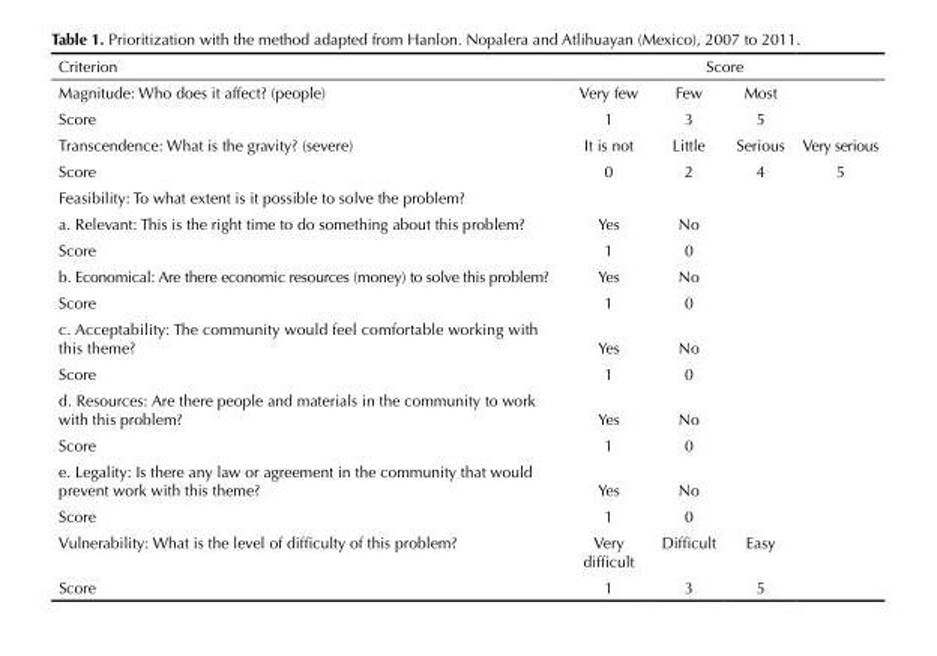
<table><thead><tr><td rowspan="2">Criterion Magnitude: Who does it affect? (people)</td><td colspan="4">Score</td></tr><tr><td>Very few</td><td>Few</td><td>Most</td><td></td></tr></thead><tbody><tr><td>Score</td><td>1</td><td>3</td><td>5</td><td></td></tr><tr><td>Transcendence: What is the gravity? (severe)</td><td>It is not</td><td>Little</td><td>Serious</td><td>Very serious</td></tr><tr><td>Score</td><td>0</td><td>2</td><td>4</td><td>5</td></tr><tr><td colspan="5">Feasibility: To what extent is it possible to solve the problem?</td></tr><tr><td>a. Relevant: This is the right time to do something about this problem?</td><td>Yes</td><td>No</td><td></td><td></td></tr><tr><td>Score</td><td>1</td><td>0</td><td></td><td></td></tr><tr><td>b. Economical: Are there economic resources (money) to solve this problem?</td><td>Yes</td><td>No</td><td></td><td></td></tr><tr><td>Score</td><td>1</td><td>0</td><td></td><td></td></tr><tr><td>c. Acceptability: The community would feel comfortable working with this theme?</td><td>Yes</td><td>No</td><td></td><td></td></tr><tr><td>Score</td><td>1</td><td>0</td><td></td><td></td></tr><tr><td>d. Resources: Are there people and materials in the community to work with this problem?</td><td>Yes</td><td>No</td><td></td><td></td></tr><tr><td>Score</td><td>1</td><td>0</td><td></td><td></td></tr><tr><td>e. Legality: Is there any law or agreement in the community that would prevent work with this theme?</td><td>Yes</td><td>No</td><td></td><td></td></tr><tr><td>Score</td><td>1</td><td>0</td><td></td><td></td></tr><tr><td>Vulnerability: What is the level of difficulty of this problem?</td><td>Very difficult</td><td>Difficult</td><td>Easy</td><td></td></tr><tr><td>Score</td><td>1</td><td>3</td><td>5</td><td></td></tr></tbody></table>